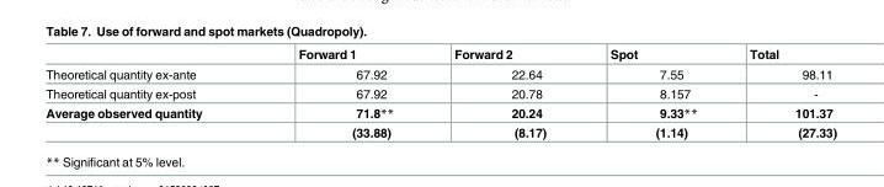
<table><thead><tr><td></td><td>Forward 1</td><td>Forward 2</td><td>Spot</td><td>Total</td></tr></thead><tbody><tr><td>Theoretical quantity ex-ante</td><td>67.92</td><td>22.64</td><td>7.55</td><td>98.11</td></tr><tr><td>Theoretical quantity ex-post</td><td>67.92</td><td>20.78</td><td>8.157</td><td>-</td></tr><tr><td rowspan="2">Average observed quantity</td><td>71.8**</td><td>20.24</td><td>9.33**</td><td>101.37</td></tr><tr><td>(33.88)</td><td>(8.17)</td><td>(1.14)</td><td>(27.33)</td></tr></tbody></table>